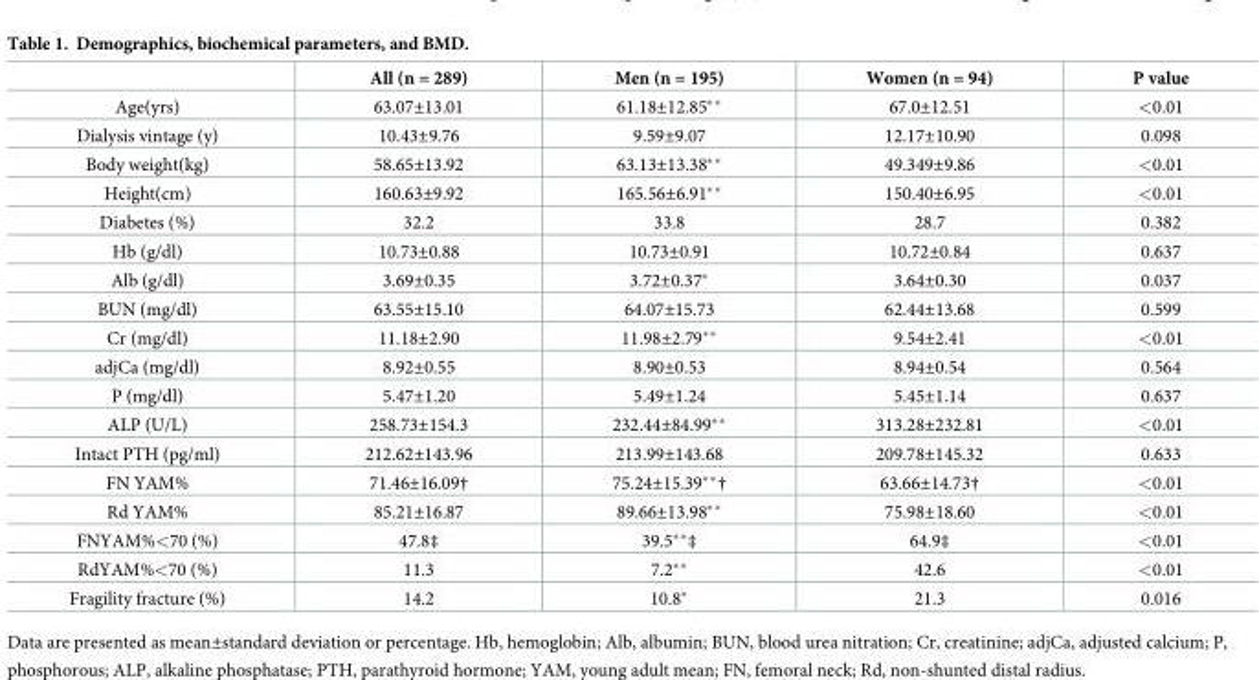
<table><thead><tr><td></td><td>All (n = 289)</td><td>Men (n = 195)</td><td>Women (n = 94)</td><td>P value</td></tr></thead><tbody><tr><td>Age(yrs)</td><td>63.07±13.01</td><td>61.18±12.85**</td><td>67.0±12.51</td><td>&lt;0.01</td></tr><tr><td>Dialysis vintage (y)</td><td>10.43±9.76</td><td>9.59±9.07</td><td>12.17±10.90</td><td>0.098</td></tr><tr><td>Body weight(kg)</td><td>58.65±13.92</td><td>63.13±13.38**</td><td>49.349±9.86</td><td>&lt;0.01</td></tr><tr><td>Height(cm)</td><td>160.63±9.92</td><td>165.56±6.91**</td><td>150.40±6.95</td><td>&lt;0.01</td></tr><tr><td>Diabetes (%)</td><td>32.2</td><td>33.8</td><td>28.7</td><td>0.382</td></tr><tr><td>Hb (g/dl)</td><td>10.73±0.88</td><td>10.73±0.91</td><td>10.72±0.84</td><td>0.637</td></tr><tr><td>Alb (g/dl)</td><td>3.69±0.35</td><td>3.72±0.37*</td><td>3.64±0.30</td><td>0.037</td></tr><tr><td>BUN (mg/dl)</td><td>63.55±15.10</td><td>64.07±15.73</td><td>62.44±13.68</td><td>0.599</td></tr><tr><td>Cr (mg/dl)</td><td>11.18±2.90</td><td>11.98±2.79**</td><td>9.54±2.41</td><td>&lt;0.01</td></tr><tr><td>adjCa (mg/dl)</td><td>8.92±0.55</td><td>8.90±0.53</td><td>8.94±0.54</td><td>0.564</td></tr><tr><td>P (mg/dl)</td><td>5.47±1.20</td><td>5.49±1.24</td><td>5.45±1.14</td><td>0.637</td></tr><tr><td>ALP (U/L)</td><td>258.73±154.3</td><td>232.44±84.99**</td><td>313.28±232.81</td><td>&lt;0.01</td></tr><tr><td>Intact PTH (pg/ml)</td><td>212.62±143.96</td><td>213.99±143.68</td><td>209.78±145.32</td><td>0.633</td></tr><tr><td>FN YAM%</td><td>71.46±16.09†</td><td>75.24±15.39**†</td><td>63.66±14.73†</td><td>&lt;0.01</td></tr><tr><td>Rd YAM%</td><td>85.21±16.87</td><td>89.66±13.98**</td><td>75.98±18.60</td><td>&lt;0.01</td></tr><tr><td>FNYAM%&lt;70 (%)</td><td>47.8‡</td><td>39.5**‡</td><td>64.9‡</td><td>&lt;0.01</td></tr><tr><td>RdYAM%&lt;70 (%)</td><td>11.3</td><td>7.2**</td><td>42.6</td><td>&lt;0.01</td></tr><tr><td>Fragility fracture (%)</td><td>14.2</td><td>10.8*</td><td>21.3</td><td>0.016</td></tr></tbody></table>